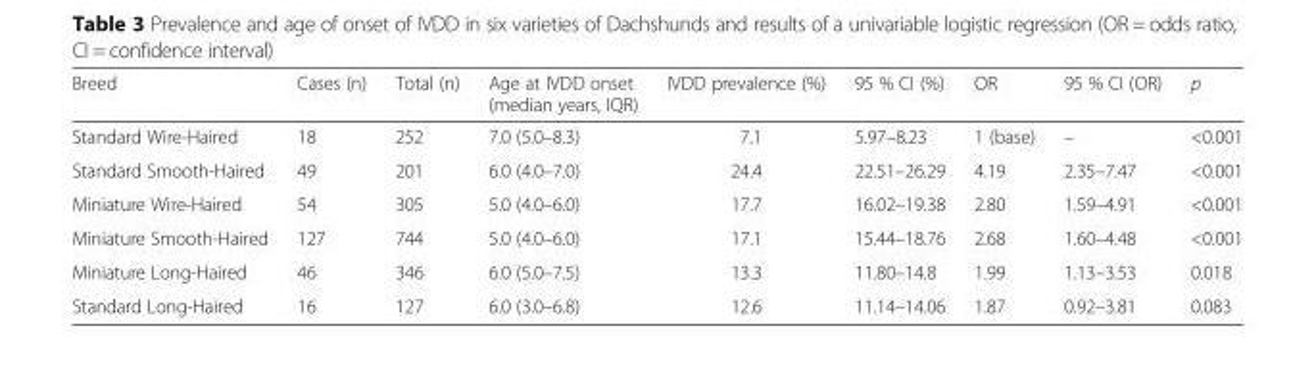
<table><thead><tr><td>Breed</td><td>Cases (n)</td><td>Total (n)</td><td>Age at IVDD onset (median years, IQR)</td><td>IVDD prevalence (%)</td><td>95 % CI (%)</td><td>OR</td><td>95 % CI (OR)</td><td>p</td></tr></thead><tbody><tr><td>Standard Wire-Haired</td><td>18</td><td>252</td><td>7.0 (5.0–8.3)</td><td>7.1</td><td>5.97–8.23</td><td>1 (base)</td><td>–</td><td>&lt;0.001</td></tr><tr><td>Standard Smooth-Haired</td><td>49</td><td>201</td><td>6.0 (4.0–7.0)</td><td>24.4</td><td>22.51–26.29</td><td>4.19</td><td>2.35–7.47</td><td>&lt;0.001</td></tr><tr><td>Miniature Wire-Haired</td><td>54</td><td>305</td><td>5.0 (4.0–6.0)</td><td>17.7</td><td>16.02–19.38</td><td>2.80</td><td>1.59–4.91</td><td>&lt;0.001</td></tr><tr><td>Miniature Smooth-Haired</td><td>127</td><td>744</td><td>5.0 (4.0–6.0)</td><td>17.1</td><td>15.44–18.76</td><td>2.68</td><td>1.60–4.48</td><td>&lt;0.001</td></tr><tr><td>Miniature Long-Haired</td><td>46</td><td>346</td><td>6.0 (5.0–7.5)</td><td>13.3</td><td>11.80–14.8</td><td>1.99</td><td>1.13–3.53</td><td>0.018</td></tr><tr><td>Standard Long-Haired</td><td>16</td><td>127</td><td>6.0 (3.0–6.8)</td><td>12.6</td><td>11.14–14.06</td><td>1.87</td><td>0.92–3.81</td><td>0.083</td></tr></tbody></table>